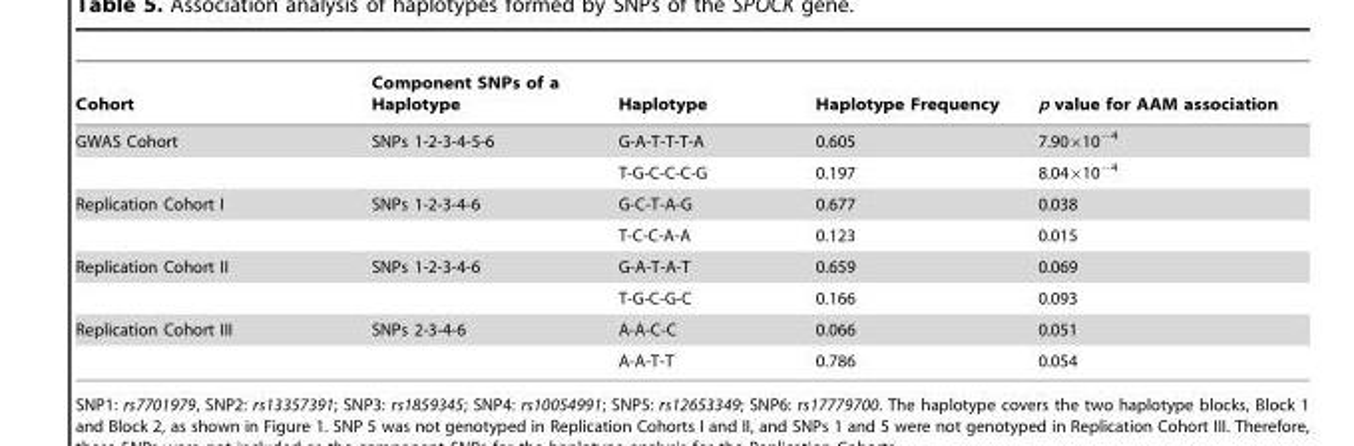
<table><thead><tr><td>Cohort</td><td>Component SNPs of a Haplotype</td><td>Haplotype</td><td>Haplotype Frequency</td><td>p value for AAM association</td></tr></thead><tbody><tr><td rowspan="2">GWAS Cohort</td><td>SNPs 1-2-3-4-5-6</td><td>G-A-T-T-T-A</td><td>0.605</td><td>7.90×10<sup>−4</sup></td></tr><tr><td></td><td>T-G-C-C-C-G</td><td>0.197</td><td>8.04×10<sup>−4</sup></td></tr><tr><td rowspan="2">Replication Cohort I</td><td>SNPs 1-2-3-4-6</td><td>G-C-T-A-G</td><td>0.677</td><td>0.038</td></tr><tr><td></td><td>T-C-C-A-A</td><td>0.123</td><td>0.015</td></tr><tr><td rowspan="2">Replication Cohort II</td><td>SNPs 1-2-3-4-6</td><td>G-A-T-A-T</td><td>0.659</td><td>0.069</td></tr><tr><td></td><td>T-G-C-G-C</td><td>0.166</td><td>0.093</td></tr><tr><td rowspan="2">Replication Cohort III</td><td>SNPs 2-3-4-6</td><td>A-A-C-C</td><td>0.066</td><td>0.051</td></tr><tr><td></td><td>A-A-T-T</td><td>0.786</td><td>0.054</td></tr></tbody></table>